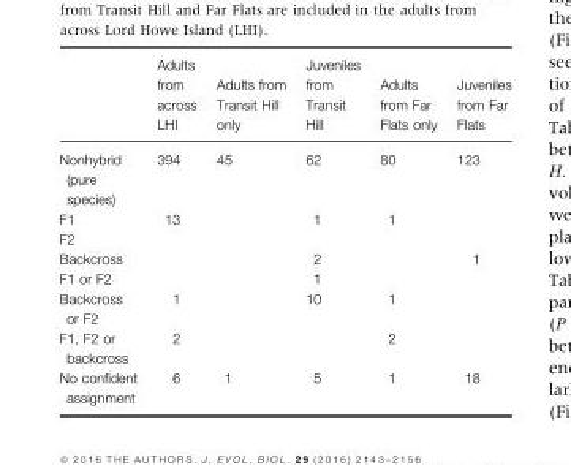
<table><thead><tr><td></td><td>Adults from across LHI</td><td>Adults from Transit Hill only</td><td>Juveniles from Transit Hill</td><td>Adults from Far Flats only</td><td>Juveniles from Far Flats</td></tr></thead><tbody><tr><td>Nonhybrid (pure species)</td><td>394</td><td>45</td><td>62</td><td>80</td><td>123</td></tr><tr><td>F1</td><td>13</td><td></td><td>1</td><td>1</td><td></td></tr><tr><td colspan="6">F2</td></tr><tr><td>Backcross</td><td></td><td></td><td>2</td><td></td><td>1</td></tr><tr><td>F1 or F2</td><td></td><td></td><td>1</td><td></td><td></td></tr><tr><td>Backcross or F2</td><td>1</td><td></td><td>10</td><td>1</td><td></td></tr><tr><td>F1, F2 or backcross</td><td>2</td><td></td><td></td><td>2</td><td></td></tr><tr><td>No confident assignment</td><td>6</td><td>1</td><td>5</td><td>1</td><td>18</td></tr></tbody></table>